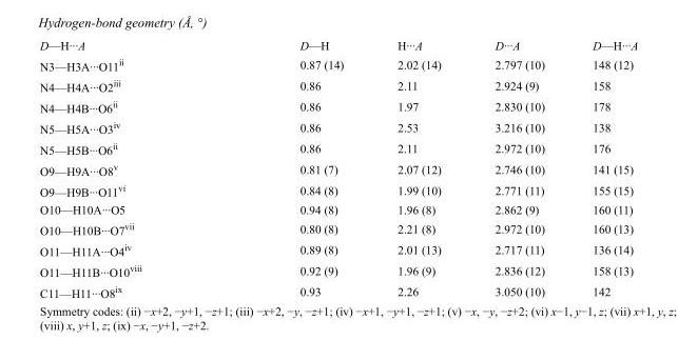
<table><tbody><tr><td>D—H···A</td><td>D—H</td><td>H···A</td><td>D···A</td><td>D—H···A</td></tr><tr><td>N3—H3A···O11<sup>ii</sup></td><td>0.87 (14)</td><td>2.02 (14)</td><td>2.797 (10)</td><td>148 (12)</td></tr><tr><td>N4—H4A···O2<sup>iii</sup></td><td>0.86</td><td>2.11</td><td>2.924 (9)</td><td>158</td></tr><tr><td>N4—H4B···O6<sup>ii</sup></td><td>0.86</td><td>1.97</td><td>2.830 (10)</td><td>178</td></tr><tr><td>N5—H5A···O3<sup>iv</sup></td><td>0.86</td><td>2.53</td><td>3.216 (10)</td><td>138</td></tr><tr><td>N5—H5B···O6<sup>ii</sup></td><td>0.86</td><td>2.11</td><td>2.972 (10)</td><td>176</td></tr><tr><td>O9—H9A···O8<sup>v</sup></td><td>0.81 (7)</td><td>2.07 (12)</td><td>2.746 (10)</td><td>141 (15)</td></tr><tr><td>O9—H9B···O11<sup>vi</sup></td><td>0.84 (8)</td><td>1.99 (10)</td><td>2.771 (11)</td><td>155 (15)</td></tr><tr><td>O10—H10A···O5</td><td>0.94 (8)</td><td>1.96 (8)</td><td>2.862 (9)</td><td>160 (11)</td></tr><tr><td>O10—H10B···O7<sup>vii</sup></td><td>0.80 (8)</td><td>2.21 (8)</td><td>2.972 (10)</td><td>160 (13)</td></tr><tr><td>O11—H11A···O4<sup>iv</sup></td><td>0.89 (8)</td><td>2.01 (13)</td><td>2.717 (11)</td><td>136 (14)</td></tr><tr><td>O11—H11B···O10<sup>viii</sup></td><td>0.92 (9)</td><td>1.96 (9)</td><td>2.836 (12)</td><td>158 (13)</td></tr><tr><td>C11—H11···O8<sup>ix</sup></td><td>0.93</td><td>2.26</td><td>3.050 (10)</td><td>142</td></tr></tbody></table>